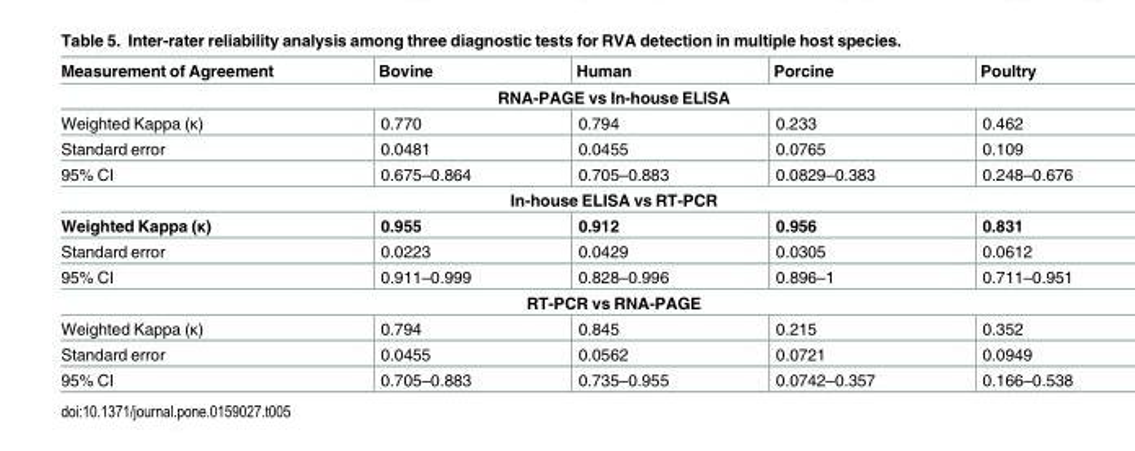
<table><thead><tr><td>Measurement of Agreement</td><td>Bovine</td><td>Human</td><td>Porcine</td><td>Poultry</td></tr></thead><tbody><tr><td colspan="5">RNA-PAGE vs In-house ELISA</td></tr><tr><td>Weighted Kappa (κ)</td><td>0.770</td><td>0.794</td><td>0.233</td><td>0.462</td></tr><tr><td>Standard error</td><td>0.0481</td><td>0.0455</td><td>0.0765</td><td>0.109</td></tr><tr><td>95% CI</td><td>0.675–0.864</td><td>0.705–0.883</td><td>0.0829–0.383</td><td>0.248–0.676</td></tr><tr><td colspan="5">In-house ELISA vs RT-PCR</td></tr><tr><td>Weighted Kappa (κ)</td><td>0.955</td><td>0.912</td><td>0.956</td><td>0.831</td></tr><tr><td>Standard error</td><td>0.0223</td><td>0.0429</td><td>0.0305</td><td>0.0612</td></tr><tr><td>95% CI</td><td>0.911–0.999</td><td>0.828–0.996</td><td>0.896–1</td><td>0.711–0.951</td></tr><tr><td colspan="5">RT-PCR vs RNA-PAGE</td></tr><tr><td>Weighted Kappa (κ)</td><td>0.794</td><td>0.845</td><td>0.215</td><td>0.352</td></tr><tr><td>Standard error</td><td>0.0455</td><td>0.0562</td><td>0.0721</td><td>0.0949</td></tr><tr><td>95% CI</td><td>0.705–0.883</td><td>0.735–0.955</td><td>0.0742–0.357</td><td>0.166–0.538</td></tr></tbody></table>